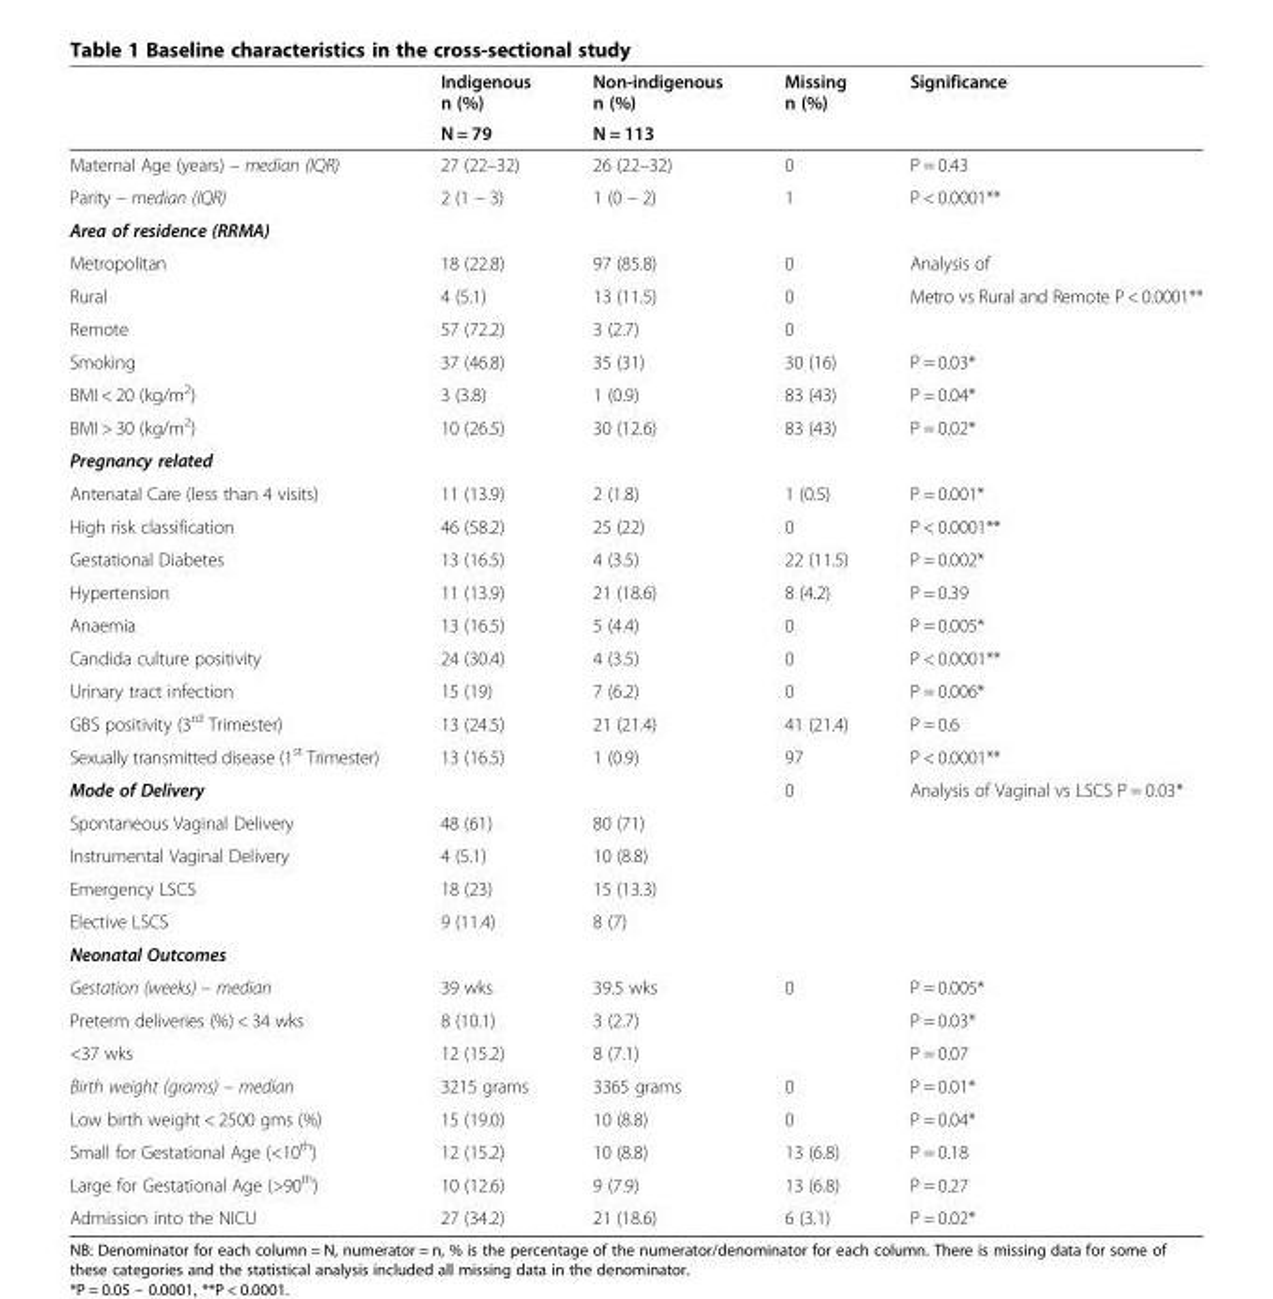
<table><thead><tr><td rowspan="2"></td><td rowspan="2">Indigenous n (%) N = 79</td><td rowspan="2">Non-indigenous n (%) N = 113</td><td rowspan="2">Missing n (%)</td><td rowspan="2">Significance</td></tr><tr></tr></thead><tbody><tr><td>Maternal Age (years) – median (IQR)</td><td>27 (22–32)</td><td>26 (22–32)</td><td>0</td><td>P = 0.43</td></tr><tr><td>Parity – median (IQR)</td><td>2 (1 – 3)</td><td>1 (0 – 2)</td><td>1</td><td>P &lt; 0.0001**</td></tr><tr><td colspan="5">Area of residence (RRMA)</td></tr><tr><td>Metropolitan</td><td>18 (22.8)</td><td>97 (85.8)</td><td>0</td><td>Analysis of</td></tr><tr><td>Rural</td><td>4 (5.1)</td><td>13 (11.5)</td><td>0</td><td rowspan="2">Metro vs Rural and Remote P &lt; 0.0001**</td></tr><tr><td>Remote</td><td>57 (72.2)</td><td>3 (2.7)</td><td>0</td></tr><tr><td>Smoking</td><td>37 (46.8)</td><td>35 (31)</td><td>30 (16)</td><td>P = 0.03*</td></tr><tr><td>BMI &lt; 20 (kg/m<sup>2</sup>)</td><td>3 (3.8)</td><td>1 (0.9)</td><td>83 (43)</td><td>P = 0.04*</td></tr><tr><td>BMI &gt; 30 (kg/m<sup>2</sup>)</td><td>10 (26.5)</td><td>30 (12.6)</td><td>83 (43)</td><td>P = 0.02*</td></tr><tr><td colspan="5">Pregnancy related</td></tr><tr><td>Antenatal Care (less than 4 visits)</td><td>11 (13.9)</td><td>2 (1.8)</td><td>1 (0.5)</td><td>P = 0.001*</td></tr><tr><td>High risk classification</td><td>46 (58.2)</td><td>25 (22)</td><td>0</td><td>P &lt; 0.0001**</td></tr><tr><td>Gestational Diabetes</td><td>13 (16.5)</td><td>4 (3.5)</td><td>22 (11.5)</td><td>P = 0.002*</td></tr><tr><td>Hypertension</td><td>11 (13.9)</td><td>21 (18.6)</td><td>8 (4.2)</td><td>P = 0.39</td></tr><tr><td>Anaemia</td><td>13 (16.5)</td><td>5 (4.4)</td><td>0</td><td>P = 0.005*</td></tr><tr><td>Candida culture positivity</td><td>24 (30.4)</td><td>4 (3.5)</td><td>0</td><td>P &lt; 0.0001**</td></tr><tr><td>Urinary tract infection</td><td>15 (19)</td><td>7 (6.2)</td><td>0</td><td>P = 0.006*</td></tr><tr><td>GBS positivity (3<sup>rd</sup> Trimester)</td><td>13 (24.5)</td><td>21 (21.4)</td><td>41 (21.4)</td><td>P = 0.6</td></tr><tr><td>Sexually transmitted disease (1<sup>st</sup> Trimester)</td><td>13 (16.5)</td><td>1 (0.9)</td><td>97</td><td>P &lt; 0.0001**</td></tr><tr><td colspan="3">Mode of Delivery</td><td rowspan="3">0</td><td rowspan="5">Analysis of Vaginal vs LSCS P = 0.03*</td></tr><tr><td>Spontaneous Vaginal Delivery</td><td>48 (61)</td><td>80 (71)</td></tr><tr><td>Instrumental Vaginal Delivery</td><td>4 (5.1)</td><td>10 (8.8)</td></tr><tr><td>Emergency LSCS</td><td>18 (23)</td><td>15 (13.3)</td><td rowspan="2"></td></tr><tr><td>Elective LSCS</td><td>9 (11.4)</td><td>8 (7)</td></tr><tr><td colspan="5">Neonatal Outcomes</td></tr><tr><td>Gestation (weeks) – median</td><td>39 wks</td><td>39.5 wks</td><td>0</td><td>P = 0.005*</td></tr><tr><td>Preterm deliveries (%) &lt; 34 wks</td><td>8 (10.1)</td><td>3 (2.7)</td><td></td><td>P = 0.03*</td></tr><tr><td>&lt;37 wks</td><td>12 (15.2)</td><td>8 (7.1)</td><td></td><td>P = 0.07</td></tr><tr><td>Birth weight (grams) – median</td><td>3215 grams</td><td>3365 grams</td><td>0</td><td>P = 0.01*</td></tr><tr><td>Low birth weight &lt; 2500 gms (%)</td><td>15 (19.0)</td><td>10 (8.8)</td><td>0</td><td>P = 0.04*</td></tr><tr><td>Small for Gestational Age (&lt;10<sup>th</sup>)</td><td>12 (15.2)</td><td>10 (8.8)</td><td>13 (6.8)</td><td>P = 0.18</td></tr><tr><td>Large for Gestational Age (&gt;90<sup>th</sup>)</td><td>10 (12.6)</td><td>9 (7.9)</td><td>13 (6.8)</td><td>P = 0.27</td></tr><tr><td>Admission into the NICU</td><td>27 (34.2)</td><td>21 (18.6)</td><td>6 (3.1)</td><td>P = 0.02*</td></tr></tbody></table>